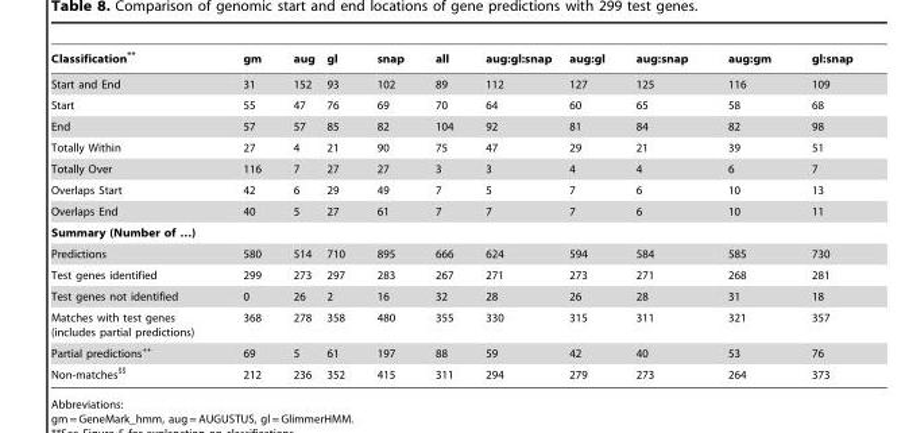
<table><thead><tr><td>Classification**</td><td>gm</td><td>aug</td><td>gl</td><td>snap</td><td>all</td><td>aug:gl:snap</td><td>aug:gl</td><td>aug:snap</td><td>aug:gm</td><td>gl:snap</td></tr></thead><tbody><tr><td>Start and End</td><td>31</td><td>152</td><td>93</td><td>102</td><td>89</td><td>112</td><td>127</td><td>125</td><td>116</td><td>109</td></tr><tr><td>Start</td><td>55</td><td>47</td><td>76</td><td>69</td><td>70</td><td>64</td><td>60</td><td>65</td><td>58</td><td>68</td></tr><tr><td>End</td><td>57</td><td>57</td><td>85</td><td>82</td><td>104</td><td>92</td><td>81</td><td>84</td><td>82</td><td>98</td></tr><tr><td>Totally Within</td><td>27</td><td>4</td><td>21</td><td>90</td><td>75</td><td>47</td><td>29</td><td>21</td><td>39</td><td>51</td></tr><tr><td>Totally Over</td><td>116</td><td>7</td><td>27</td><td>27</td><td>3</td><td>3</td><td>4</td><td>4</td><td>6</td><td>7</td></tr><tr><td>Overlaps Start</td><td>42</td><td>6</td><td>29</td><td>49</td><td>7</td><td>5</td><td>7</td><td>6</td><td>10</td><td>13</td></tr><tr><td>Overlaps End</td><td>40</td><td>5</td><td>27</td><td>61</td><td>7</td><td>7</td><td>7</td><td>6</td><td>10</td><td>11</td></tr><tr><td colspan="11">Summary (Number of …)</td></tr><tr><td>Predictions</td><td>580</td><td>514</td><td>710</td><td>895</td><td>666</td><td>624</td><td>594</td><td>584</td><td>585</td><td>730</td></tr><tr><td>Test genes identified</td><td>299</td><td>273</td><td>297</td><td>283</td><td>267</td><td>271</td><td>273</td><td>271</td><td>268</td><td>281</td></tr><tr><td>Test genes not identified</td><td>0</td><td>26</td><td>2</td><td>16</td><td>32</td><td>28</td><td>26</td><td>28</td><td>31</td><td>18</td></tr><tr><td>Matches with test genes (includes partial predictions)</td><td>368</td><td>278</td><td>358</td><td>480</td><td>355</td><td>330</td><td>315</td><td>311</td><td>321</td><td>357</td></tr><tr><td>Partial predictions++</td><td>69</td><td>5</td><td>61</td><td>197</td><td>88</td><td>59</td><td>42</td><td>40</td><td>53</td><td>76</td></tr><tr><td>Non-matches$$</td><td>212</td><td>236</td><td>352</td><td>415</td><td>311</td><td>294</td><td>279</td><td>273</td><td>264</td><td>373</td></tr></tbody></table>